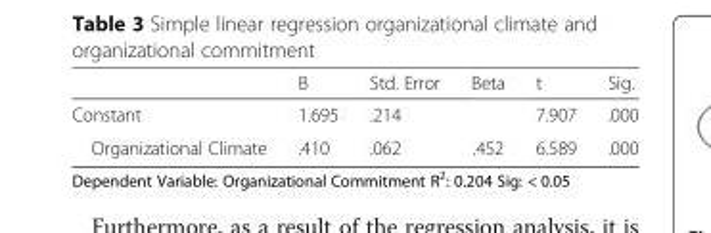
<table><thead><tr><td></td><td>B</td><td>Std. Error</td><td>Beta</td><td>t</td><td>Sig.</td></tr></thead><tbody><tr><td>Constant</td><td>1.695</td><td>.214</td><td></td><td>7.907</td><td>.000</td></tr><tr><td>Organizational Climate</td><td>.410</td><td>.062</td><td>.452</td><td>6.589</td><td>.000</td></tr></tbody></table>